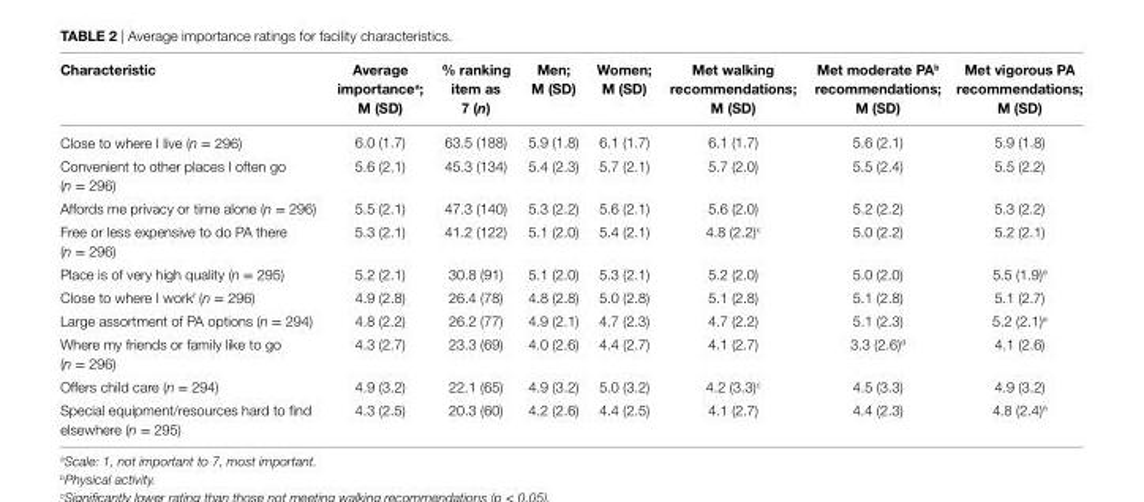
<table><thead><tr><td>characteristic</td><td>average importance<sup>a</sup>; M (sD)</td><td>% ranking item as 7 (n)</td><td>Men; M (sD)</td><td>Women; M (sD)</td><td>Met walking recommendations; M (sD)</td><td>Met moderate Pa<sup>b</sup> recommendations; M (sD)</td><td>Met vigorous Pa recommendations; M (sD)</td></tr></thead><tbody><tr><td>Close to where I live (n = 296)</td><td>6.0 (1.7)</td><td>63.5 (188)</td><td>5.9 (1.8)</td><td>6.1 (1.7)</td><td>6.1 (1.7)</td><td>5.6 (2.1)</td><td>5.9 (1.8)</td></tr><tr><td>Convenient to other places I often go (n = 296)</td><td>5.6 (2.1)</td><td>45.3 (134)</td><td>5.4 (2.3)</td><td>5.7 (2.1)</td><td>5.7 (2.0)</td><td>5.5 (2.4)</td><td>5.5 (2.2)</td></tr><tr><td>Affords me privacy or time alone (n = 296)</td><td>5.5 (2.1)</td><td>47.3 (140)</td><td>5.3 (2.2)</td><td>5.6 (2.1)</td><td>5.6 (2.0)</td><td>5.2 (2.2)</td><td>5.3 (2.2)</td></tr><tr><td>Free or less expensive to do PA there (n = 296)</td><td>5.3 (2.1)</td><td>41.2 (122)</td><td>5.1 (2.0)</td><td>5.4 (2.1)</td><td>4.8 (2.2)<sup>c</sup></td><td>5.0 (2.2)</td><td>5.2 (2.1)</td></tr><tr><td>Place is of very high quality (n = 295)</td><td>5.2 (2.1)</td><td>30.8 (91)</td><td>5.1 (2.0)</td><td>5.3 (2.1)</td><td>5.2 (2.0)</td><td>5.0 (2.0)</td><td>5.5 (1.9)<sup>e</sup></td></tr><tr><td>Close to where I work<sup>f</sup> (n = 296)</td><td>4.9 (2.8)</td><td>26.4 (78)</td><td>4.8 (2.8)</td><td>5.0 (2.8)</td><td>5.1 (2.8)</td><td>5.1 (2.8)</td><td>5.1 (2.7)</td></tr><tr><td>Large assortment of PA options (n = 294)</td><td>4.8 (2.2)</td><td>26.2 (77)</td><td>4.9 (2.1)</td><td>4.7 (2.3)</td><td>4.7 (2.2)</td><td>5.1 (2.3)</td><td>5.2 (2.1)<sup>e</sup></td></tr><tr><td>Where my friends or family like to go (n = 296)</td><td>4.3 (2.7)</td><td>23.3 (69)</td><td>4.0 (2.6)</td><td>4.4 (2.7)</td><td>4.1 (2.7)</td><td>3.3 (2.6)<sup>d</sup></td><td>4.1 (2.6)</td></tr><tr><td>Offers child care (n = 294)</td><td>4.9 (3.2)</td><td>22.1 (65)</td><td>4.9 (3.2)</td><td>5.0 (3.2)</td><td>4.2 (3.3)<sup>c</sup></td><td>4.5 (3.3)</td><td>4.9 (3.2)</td></tr><tr><td>Special equipment/resources hard to find elsewhere (n = 295)</td><td>4.3 (2.5)</td><td>20.3 (60)</td><td>4.2 (2.6)</td><td>4.4 (2.5)</td><td>4.1 (2.7)</td><td>4.4 (2.3)</td><td>4.8 (2.4)<sup>e</sup></td></tr></tbody></table>